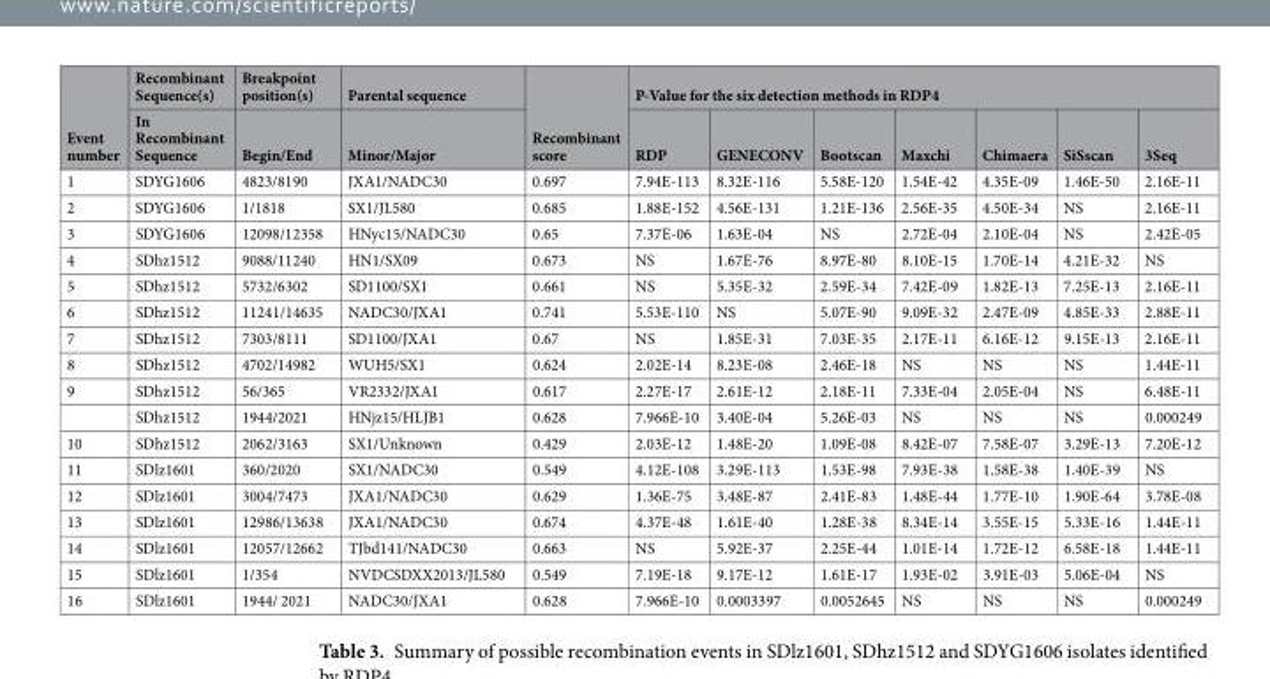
<table><thead><tr><td rowspan="2">Event number</td><td rowspan="2">Recombinant Sequence(s) In Recombinant Sequence</td><td rowspan="2">Breakpoint position(s) Begin/End</td><td rowspan="2">Parental sequence Minor/Major</td><td rowspan="2">Recombinant score</td><td colspan="7">P-Value for the six detection methods in RDP4</td></tr><tr><td>RDP</td><td>GENECONV</td><td>Bootscan</td><td>Maxchi</td><td>Chimaera</td><td>SiSscan</td><td>3Seq</td></tr></thead><tbody><tr><td>1</td><td>SDYG1606</td><td>4823/8190</td><td>JXA1/NADC30</td><td>0.697</td><td>7.94E-113</td><td>8.32E-116</td><td>5.58E-120</td><td>1.54E-42</td><td>4.35E-09</td><td>1.46E-50</td><td>2.16E-11</td></tr><tr><td>2</td><td>SDYG1606</td><td>1/1818</td><td>SX1/JL580</td><td>0.685</td><td>1.88E-152</td><td>4.56E-131</td><td>1.21E-136</td><td>2.56E-35</td><td>4.50E-34</td><td>NS</td><td>2.16E-11</td></tr><tr><td>3</td><td>SDYG1606</td><td>12098/12358</td><td>HNyc15/NADC30</td><td>0.65</td><td>7.37E-06</td><td>1.63E-04</td><td>NS</td><td>2.72E-04</td><td>2.10E-04</td><td>NS</td><td>2.42E-05</td></tr><tr><td>4</td><td>SDhz1512</td><td>9088/11240</td><td>HN1/SX09</td><td>0.673</td><td>NS</td><td>1.67E-76</td><td>8.97E-80</td><td>8.10E-15</td><td>1.70E-14</td><td>4.21E-32</td><td>NS</td></tr><tr><td>5</td><td>SDhz1512</td><td>5732/6302</td><td>SD1100/SX1</td><td>0.661</td><td>NS</td><td>5.35E-32</td><td>2.59E-34</td><td>7.42E-09</td><td>1.82E-13</td><td>7.25E-13</td><td>2.16E-11</td></tr><tr><td>6</td><td>SDhz1512</td><td>11241/14635</td><td>NADC30/JXA1</td><td>0.741</td><td>5.53E-110</td><td>NS</td><td>5.07E-90</td><td>9.09E-32</td><td>2.47E-09</td><td>4.85E-33</td><td>2.88E-11</td></tr><tr><td>7</td><td>SDhz1512</td><td>7303/8111</td><td>SD1100/JXA1</td><td>0.67</td><td>NS</td><td>1.85E-31</td><td>7.03E-35</td><td>2.17E-11</td><td>6.16E-12</td><td>9.15E-13</td><td>2.16E-11</td></tr><tr><td>8</td><td>SDhz1512</td><td>4702/14982</td><td>WUH5/SX1</td><td>0.624</td><td>2.02E-14</td><td>8.23E-08</td><td>2.46E-18</td><td>NS</td><td>NS</td><td>NS</td><td>1.44E-11</td></tr><tr><td rowspan="2">9</td><td>SDhz1512</td><td>56/365</td><td>VR2332/JXA1</td><td>0.617</td><td>2.27E-17</td><td>2.61E-12</td><td>2.18E-11</td><td>7.33E-04</td><td>2.05E-04</td><td>NS</td><td>6.48E-11</td></tr><tr><td>SDhz1512</td><td>1944/2021</td><td>HNjz15/HLJB1</td><td>0.628</td><td>7.966E-10</td><td>3.40E-04</td><td>5.26E-03</td><td>NS</td><td>NS</td><td>NS</td><td>0.000249</td></tr><tr><td>10</td><td>SDhz1512</td><td>2062/3163</td><td>SX1/Unknown</td><td>0.429</td><td>2.03E-12</td><td>1.48E-20</td><td>1.09E-08</td><td>8.42E-07</td><td>7.58E-07</td><td>3.29E-13</td><td>7.20E-12</td></tr><tr><td>11</td><td>SDlz1601</td><td>360/2020</td><td>SX1/NADC30</td><td>0.549</td><td>4.12E-108</td><td>3.29E-113</td><td>1.53E-98</td><td>7.93E-38</td><td>1.58E-38</td><td>1.40E-39</td><td>NS</td></tr><tr><td>12</td><td>SDlz1601</td><td>3004/7473</td><td>JXA1/NADC30</td><td>0.629</td><td>1.36E-75</td><td>3.48E-87</td><td>2.41E-83</td><td>1.48E-44</td><td>1.77E-10</td><td>1.90E-64</td><td>3.78E-08</td></tr><tr><td>13</td><td>SDlz1601</td><td>12986/13638</td><td>JXA1/NADC30</td><td>0.674</td><td>4.37E-48</td><td>1.61E-40</td><td>1.28E-38</td><td>8.34E-14</td><td>3.55E-15</td><td>5.33E-16</td><td>1.44E-11</td></tr><tr><td>14</td><td>SDlz1601</td><td>12057/12662</td><td>TJbd141/NADC30</td><td>0.663</td><td>NS</td><td>5.92E-37</td><td>2.25E-44</td><td>1.01E-14</td><td>1.72E-12</td><td>6.58E-18</td><td>1.44E-11</td></tr><tr><td>15</td><td>SDlz1601</td><td>1/354</td><td>NVDCSDXX2013/JL580</td><td>0.549</td><td>7.19E-18</td><td>9.17E-12</td><td>1.61E-17</td><td>1.93E-02</td><td>3.91E-03</td><td>5.06E-04</td><td>NS</td></tr><tr><td>16</td><td>SDlz1601</td><td>1944/ 2021</td><td>NADC30/JXA1</td><td>0.628</td><td>7.966E-10</td><td>0.0003397</td><td>0.0052645</td><td>NS</td><td>NS</td><td>NS</td><td>0.000249</td></tr></tbody></table>